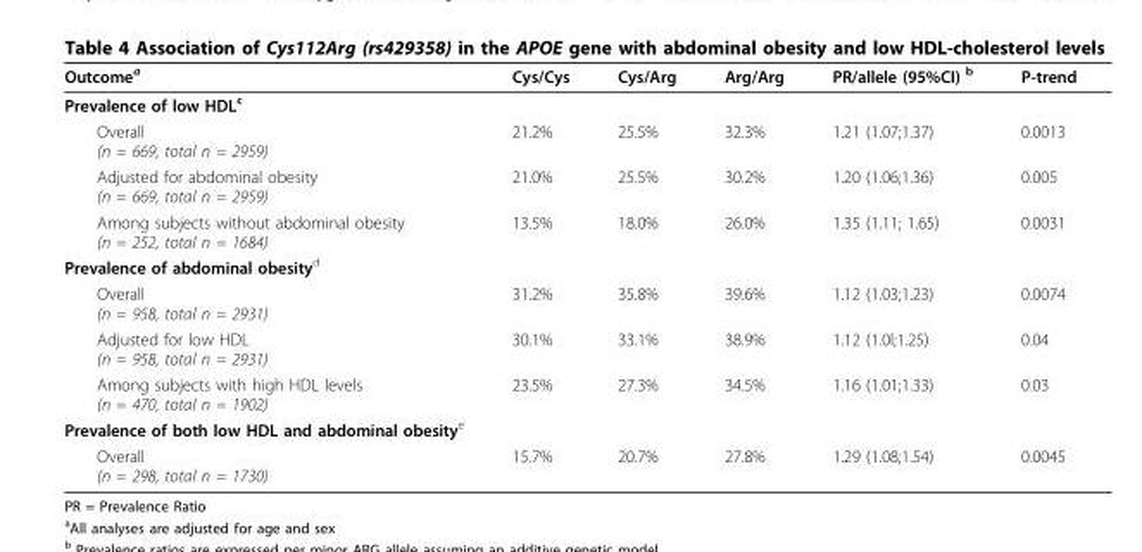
<table><thead><tr><td>Outcome<sup>a</sup></td><td>Cys/Cys</td><td>Cys/Arg</td><td>Arg/Arg</td><td>PR/allele (95%CI) <sup>b</sup></td><td>P-trend</td></tr></thead><tbody><tr><td colspan="6">Prevalence of low HDL<sup>c</sup></td></tr><tr><td>Overall (n = 669, total n = 2959)</td><td>21.2%</td><td>25.5%</td><td>32.3%</td><td>1.21 (1.07;1.37)</td><td>0.0013</td></tr><tr><td>Adjusted for abdominal obesity (n = 669, total n = 2959)</td><td>21.0%</td><td>25.5%</td><td>30.2%</td><td>1.20 (1.06;1.36)</td><td>0.005</td></tr><tr><td>Among subjects without abdominal obesity (n = 252, total n = 1684)</td><td>13.5%</td><td>18.0%</td><td>26.0%</td><td>1.35 (1.11; 1.65)</td><td>0.0031</td></tr><tr><td colspan="6">Prevalence of abdominal obesity<sup>d</sup></td></tr><tr><td>Overall (n = 958, total n = 2931)</td><td>31.2%</td><td>35.8%</td><td>39.6%</td><td>1.12 (1.03;1.23)</td><td>0.0074</td></tr><tr><td>Adjusted for low HDL (n = 958, total n = 2931)</td><td>30.1%</td><td>33.1%</td><td>38.9%</td><td>1.12 (1.0l;1.25)</td><td>0.04</td></tr><tr><td>Among subjects with high HDL levels (n = 470, total n = 1902)</td><td>23.5%</td><td>27.3%</td><td>34.5%</td><td>1.16 (1.01;1.33)</td><td>0.03</td></tr><tr><td colspan="6">Prevalence of both low HDL and abdominal obesity<sup>e</sup></td></tr><tr><td>Overall (n = 298, total n = 1730)</td><td>15.7%</td><td>20.7%</td><td>27.8%</td><td>1.29 (1.08;1.54)</td><td>0.0045</td></tr></tbody></table>